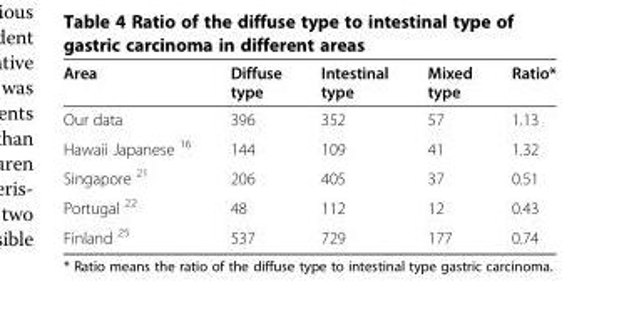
<table><thead><tr><td>Area</td><td>Diffuse type</td><td>Intestinal type</td><td>Mixed type</td><td>Ratio*</td></tr></thead><tbody><tr><td>Our data</td><td>396</td><td>352</td><td>57</td><td>1.13</td></tr><tr><td>Hawaii Japanese <sup>16</sup></td><td>144</td><td>109</td><td>41</td><td>1.32</td></tr><tr><td>Singapore <sup>21</sup></td><td>206</td><td>405</td><td>37</td><td>0.51</td></tr><tr><td>Portugal <sup>22</sup></td><td>48</td><td>112</td><td>12</td><td>0.43</td></tr><tr><td>Finland <sup>25</sup></td><td>537</td><td>729</td><td>177</td><td>0.74</td></tr></tbody></table>